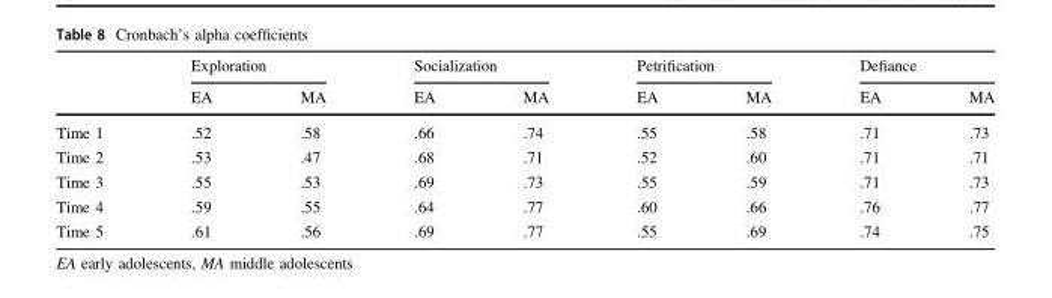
<table><thead><tr><td rowspan="2"></td><td colspan="2">Exploration</td><td colspan="2">Socialization</td><td colspan="2">Petrification</td><td colspan="2">Defiance</td></tr><tr><td>EA</td><td>MA</td><td>EA</td><td>MA</td><td>EA</td><td>MA</td><td>EA</td><td>MA</td></tr></thead><tbody><tr><td>Time 1</td><td>.52</td><td>.58</td><td>.66</td><td>.74</td><td>.55</td><td>.58</td><td>.71</td><td>.73</td></tr><tr><td>Time 2</td><td>.53</td><td>.47</td><td>.68</td><td>.71</td><td>.52</td><td>.60</td><td>.71</td><td>.71</td></tr><tr><td>Time 3</td><td>.55</td><td>.53</td><td>.69</td><td>.73</td><td>.55</td><td>.59</td><td>.71</td><td>.73</td></tr><tr><td>Time 4</td><td>.59</td><td>.55</td><td>.64</td><td>.77</td><td>.60</td><td>.66</td><td>.76</td><td>.77</td></tr><tr><td>Time 5</td><td>.61</td><td>.56</td><td>.69</td><td>.77</td><td>.55</td><td>.69</td><td>.74</td><td>.75</td></tr></tbody></table>